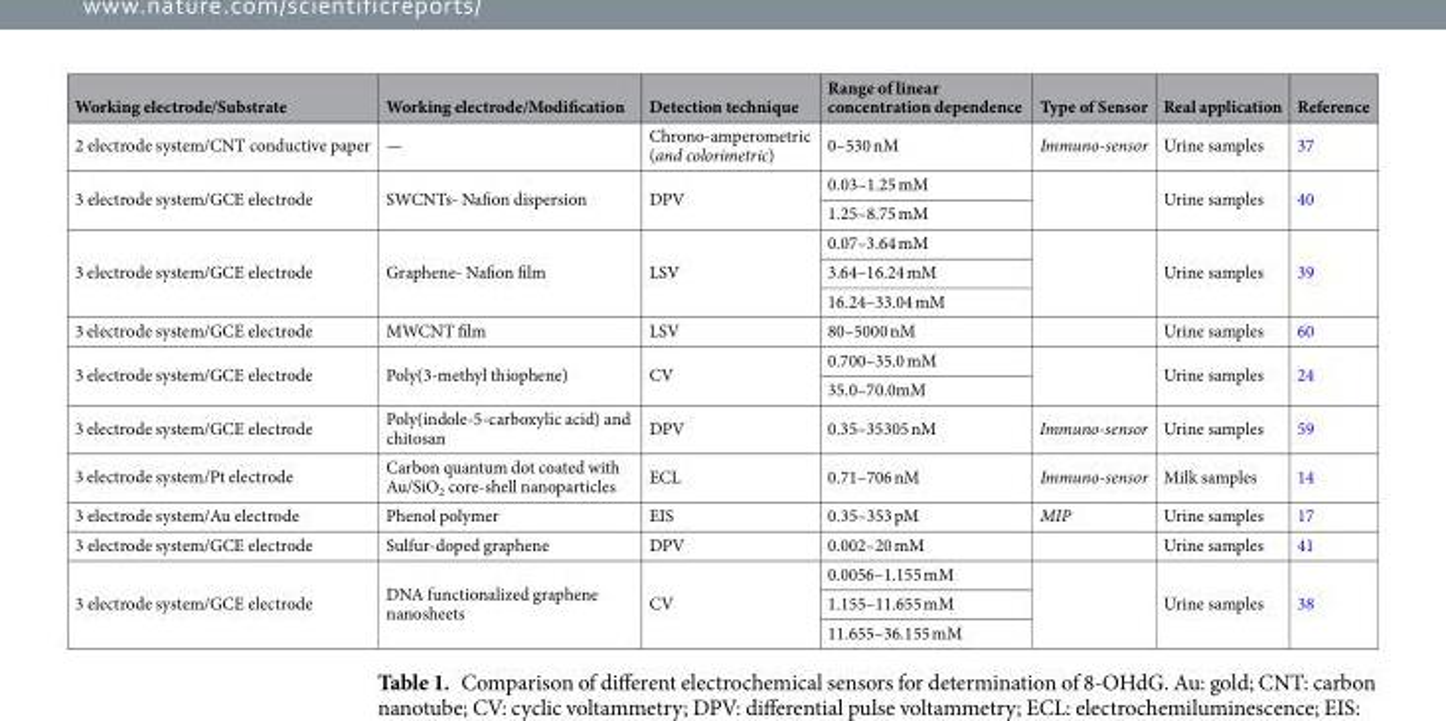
<table><thead><tr><td>Working electrode/Substrate</td><td>Working electrode/Modification</td><td>Detection technique</td><td>Range of linear concentration dependence</td><td>Type of Sensor</td><td>Real application</td><td>Reference</td></tr></thead><tbody><tr><td>2 electrode system/CNT conductive paper</td><td>—</td><td>Chrono-amperometric (and colorimetric)</td><td>0–530 nM</td><td>Immuno-sensor</td><td>Urine samples</td><td>37</td></tr><tr><td rowspan="2">3 electrode system/GCE electrode</td><td rowspan="2">SWCNTs- Nafion dispersion</td><td rowspan="2">DPV</td><td>0.03–1.25 mM</td><td rowspan="2"></td><td rowspan="2">Urine samples</td><td rowspan="2">40</td></tr><tr><td>1.25–8.75 mM</td></tr><tr><td rowspan="3">3 electrode system/GCE electrode</td><td rowspan="3">Graphene- Nafion film</td><td rowspan="3">LSV</td><td>0.07–3.64 mM</td><td rowspan="3"></td><td rowspan="3">Urine samples</td><td rowspan="3">39</td></tr><tr><td>3.64–16.24 mM</td></tr><tr><td>16.24–33.04 mM</td></tr><tr><td>3 electrode system/GCE electrode</td><td>MWCNT film</td><td>LSV</td><td>80–5000 nM</td><td></td><td>Urine samples</td><td>60</td></tr><tr><td rowspan="2">3 electrode system/GCE electrode</td><td rowspan="2">Poly(3-methyl thiophene)</td><td rowspan="2">CV</td><td>0.700–35.0 mM</td><td rowspan="2"></td><td rowspan="2">Urine samples</td><td rowspan="2">24</td></tr><tr><td>35.0–70.0mM</td></tr><tr><td>3 electrode system/GCE electrode</td><td>Poly(indole-5-carboxylic acid) and chitosan</td><td>DPV</td><td>0.35–35305 nM</td><td>Immuno-sensor</td><td>Urine samples</td><td>59</td></tr><tr><td>3 electrode system/Pt electrode</td><td>Carbon quantum dot coated with Au/SiO<sub>2</sub> core-shell nanoparticles</td><td>ECL</td><td>0.71–706 nM</td><td>Immuno-sensor</td><td>Milk samples</td><td>14</td></tr><tr><td>3 electrode system/Au electrode</td><td>Phenol polymer</td><td>EIS</td><td>0.35–353 pM</td><td>MIP</td><td>Urine samples</td><td>17</td></tr><tr><td>3 electrode system/GCE electrode</td><td>Sulfur-doped graphene</td><td>DPV</td><td>0.002–20 mM</td><td></td><td>Urine samples</td><td>41</td></tr><tr><td rowspan="3">3 electrode system/GCE electrode</td><td rowspan="3">DNA functionalized graphene nanosheets</td><td rowspan="3">CV</td><td>0.0056–1.155 mM</td><td rowspan="3"></td><td rowspan="3">Urine samples</td><td rowspan="3">38</td></tr><tr><td>1.155–11.655 mM</td></tr><tr><td>11.655–36.155 mM</td></tr></tbody></table>